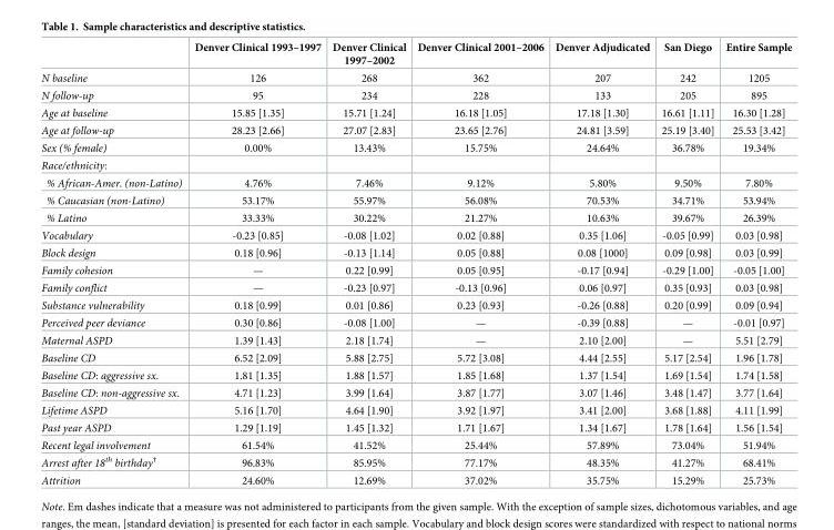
<table><thead><tr><td></td><td>Denver Clinical 1993–1997</td><td>Denver Clinical 1997–2002</td><td>Denver Clinical 2001–2006</td><td>Denver Adjudicated</td><td>San Diego</td><td>Entire Sample</td></tr></thead><tbody><tr><td>N baseline</td><td>126</td><td>268</td><td>362</td><td>207</td><td>242</td><td>1205</td></tr><tr><td>N follow-up</td><td>95</td><td>234</td><td>228</td><td>133</td><td>205</td><td>895</td></tr><tr><td>Age at baseline</td><td>15.85 [1.35]</td><td>15.71 [1.24]</td><td>16.18 [1.05]</td><td>17.18 [1.30]</td><td>16.61 [1.11]</td><td>16.30 [1.28]</td></tr><tr><td>Age at follow-up</td><td>28.23 [2.66]</td><td>27.07 [2.83]</td><td>23.65 [2.76]</td><td>24.81 [3.59]</td><td>25.19 [3.40]</td><td>25.53 [3.42]</td></tr><tr><td>Sex (% female)</td><td>0.00%</td><td>13.43%</td><td>15.75%</td><td>24.64%</td><td>36.78%</td><td>19.34%</td></tr><tr><td colspan="7">Race/ethnicity:</td></tr><tr><td>% African-Amer. (non-Latino)</td><td>4.76%</td><td>7.46%</td><td>9.12%</td><td>5.80%</td><td>9.50%</td><td>7.80%</td></tr><tr><td>% Caucasian (non-Latino)</td><td>53.17%</td><td>55.97%</td><td>56.08%</td><td>70.53%</td><td>34.71%</td><td>53.94%</td></tr><tr><td>% Latino</td><td>33.33%</td><td>30.22%</td><td>21.27%</td><td>10.63%</td><td>39.67%</td><td>26.39%</td></tr><tr><td>Vocabulary</td><td>-0.23 [0.85]</td><td>-0.08 [1.02]</td><td>0.02 [0.88]</td><td>0.35 [1.06]</td><td>-0.05 [0.99]</td><td>0.03 [0.98]</td></tr><tr><td>Block design</td><td>0.18 [0.96]</td><td>-0.13 [1.14]</td><td>0.05 [0.88]</td><td>0.08 [1000]</td><td>0.09 [0.98]</td><td>0.03 [0.99]</td></tr><tr><td>Family cohesion</td><td>—</td><td>0.22 [0.99]</td><td>0.05 [0.95]</td><td>-0.17 [0.94]</td><td>-0.29 [1.00]</td><td>-0.05 [1.00]</td></tr><tr><td>Family conflict</td><td>—</td><td>-0.23 [0.97]</td><td>-0.13 [0.96]</td><td>0.06 [0.97]</td><td>0.35 [0.93]</td><td>0.03 [0.98]</td></tr><tr><td>Substance vulnerability</td><td>0.18 [0.99]</td><td>0.01 [0.86]</td><td>0.23 [0.93]</td><td>-0.26 [0.88]</td><td>0.20 [0.99]</td><td>0.09 [0.94]</td></tr><tr><td>Perceived peer deviance</td><td>0.30 [0.86]</td><td>-0.08 [1.00]</td><td>—</td><td>-0.39 [0.88]</td><td>—</td><td>-0.01 [0.97]</td></tr><tr><td>Maternal ASPD</td><td>1.39 [1.43]</td><td>2.18 [1.74]</td><td>—</td><td>2.10 [2.00]</td><td>—</td><td>5.51 [2.79]</td></tr><tr><td>Baseline CD</td><td>6.52 [2.09]</td><td>5.88 [2.75]</td><td>5.72 [3.08]</td><td>4.44 [2.55]</td><td>5.17 [2.54]</td><td>1.96 [1.78]</td></tr><tr><td>Baseline CD: aggressive sx.</td><td>1.81 [1.35]</td><td>1.88 [1.57]</td><td>1.85 [1.68]</td><td>1.37 [1.54]</td><td>1.69 [1.54]</td><td>1.74 [1.58]</td></tr><tr><td>Baseline CD: non-aggressive sx.</td><td>4.71 [1.23]</td><td>3.99 [1.64]</td><td>3.87 [1.77]</td><td>3.07 [1.46]</td><td>3.48 [1.47]</td><td>3.77 [1.64]</td></tr><tr><td>Lifetime ASPD</td><td>5.16 [1.70]</td><td>4.64 [1.90]</td><td>3.92 [1.97]</td><td>3.41 [2.00]</td><td>3.68 [1.88]</td><td>4.11 [1.99]</td></tr><tr><td>Past year ASPD</td><td>1.29 [1.19]</td><td>1.45 [1.32]</td><td>1.71 [1.67]</td><td>1.34 [1.67]</td><td>1.78 [1.64]</td><td>1.56 [1.54]</td></tr><tr><td>Recent legal involvement</td><td>61.54%</td><td>41.52%</td><td>25.44%</td><td>57.89%</td><td>73.04%</td><td>51.94%</td></tr><tr><td>Arrest after 18<sup>th</sup> birthday<sup>†</sup></td><td>96.83%</td><td>85.95%</td><td>77.17%</td><td>48.35%</td><td>41.27%</td><td>68.41%</td></tr><tr><td>Attrition</td><td>24.60%</td><td>12.69%</td><td>37.02%</td><td>35.75%</td><td>15.29%</td><td>25.73%</td></tr></tbody></table>